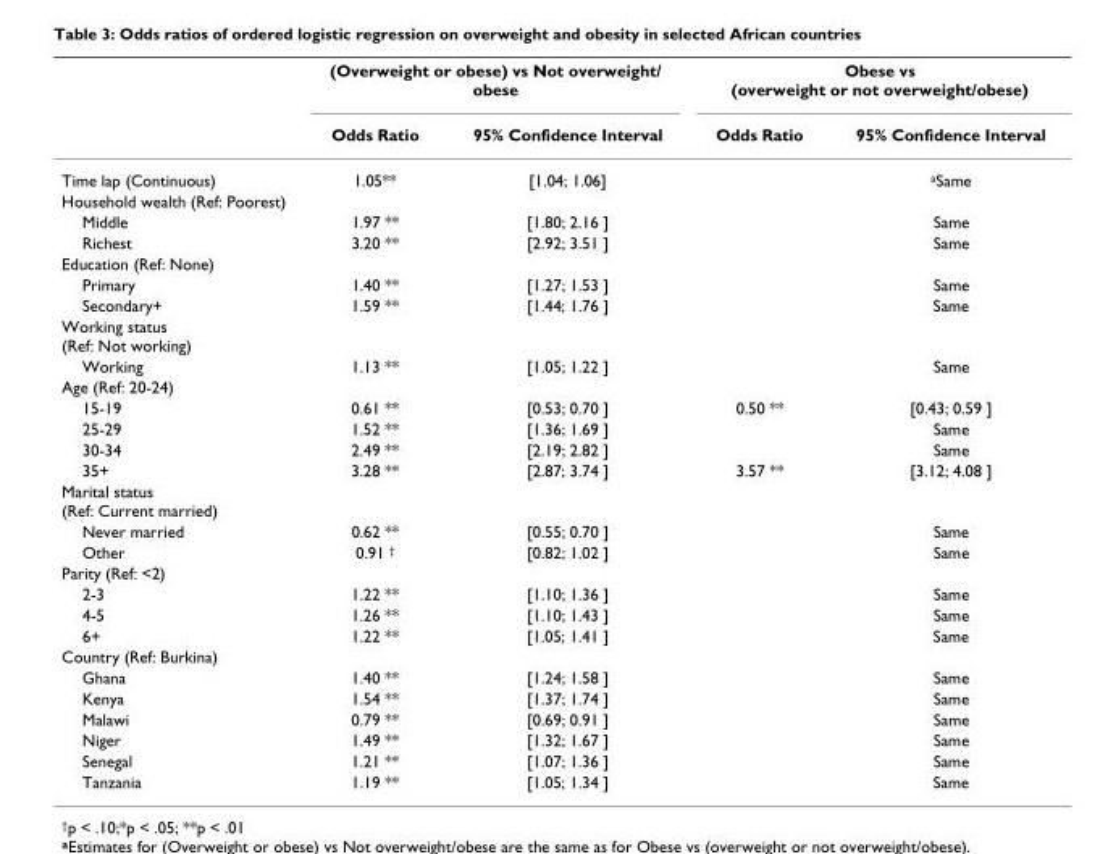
<table><thead><tr><td rowspan="2"></td><td colspan="2">(Overweight or obese) vs Not overweight/ obese</td><td colspan="2">Obese vs (overweight or not overweight/obese)</td></tr><tr><td>Odds Ratio</td><td>95% Confidence Interval</td><td>Odds Ratio</td><td>95% Confidence Interval</td></tr></thead><tbody><tr><td>Time lap (Continuous)</td><td>1.05**</td><td>[1.04; 1.06]</td><td></td><td><sup>a</sup>Same</td></tr><tr><td colspan="5">Household wealth (Ref: Poorest)</td></tr><tr><td>Middle</td><td>1.97 **</td><td>[1.80; 2.16 ]</td><td></td><td>Same</td></tr><tr><td>Richest</td><td>3.20 **</td><td>[2.92; 3.51 ]</td><td></td><td>Same</td></tr><tr><td colspan="5">Education (Ref: None)</td></tr><tr><td>Primary</td><td>1.40 **</td><td>[1.27; 1.53 ]</td><td></td><td>Same</td></tr><tr><td>Secondary+</td><td>1.59 **</td><td>[1.44; 1.76 ]</td><td></td><td>Same</td></tr><tr><td colspan="5">Working status (Ref: Not working)</td></tr><tr><td>Working</td><td>1.13 **</td><td>[1.05; 1.22 ]</td><td></td><td>Same</td></tr><tr><td colspan="5">Age (Ref: 20-24)</td></tr><tr><td>15-19</td><td>0.61 **</td><td>[0.53; 0.70 ]</td><td>0.50 **</td><td>[0.43; 0.59 ]</td></tr><tr><td>25-29</td><td>1.52 **</td><td>[1.36; 1.69 ]</td><td></td><td>Same</td></tr><tr><td>30-34</td><td>2.49 **</td><td>[2.19; 2.82 ]</td><td></td><td>Same</td></tr><tr><td>35+</td><td>3.28 **</td><td>[2.87; 3.74 ]</td><td>3.57 **</td><td>[3.12; 4.08 ]</td></tr><tr><td colspan="5">Marital status (Ref: Current married)</td></tr><tr><td>Never married</td><td>0.62 **</td><td>[0.55; 0.70 ]</td><td></td><td>Same</td></tr><tr><td>Other</td><td>0.91 <sup>†</sup></td><td>[0.82; 1.02 ]</td><td></td><td>Same</td></tr><tr><td colspan="5">Parity (Ref: &lt;2)</td></tr><tr><td>2-3</td><td>1.22 **</td><td>[1.10; 1.36 ]</td><td></td><td>Same</td></tr><tr><td>4-5</td><td>1.26 **</td><td>[1.10; 1.43 ]</td><td></td><td>Same</td></tr><tr><td>6+</td><td>1.22 **</td><td>[1.05; 1.41 ]</td><td></td><td>Same</td></tr><tr><td colspan="5">Country (Ref: Burkina)</td></tr><tr><td>Ghana</td><td>1.40 **</td><td>[1.24; 1.58 ]</td><td></td><td>Same</td></tr><tr><td>Kenya</td><td>1.54 **</td><td>[1.37; 1.74 ]</td><td></td><td>Same</td></tr><tr><td>Malawi</td><td>0.79 **</td><td>[0.69; 0.91 ]</td><td></td><td>Same</td></tr><tr><td>Niger</td><td>1.49 **</td><td>[1.32; 1.67 ]</td><td></td><td>Same</td></tr><tr><td>Senegal</td><td>1.21 **</td><td>[1.07; 1.36 ]</td><td></td><td>Same</td></tr><tr><td>Tanzania</td><td>1.19 **</td><td>[1.05; 1.34 ]</td><td></td><td>Same</td></tr></tbody></table>